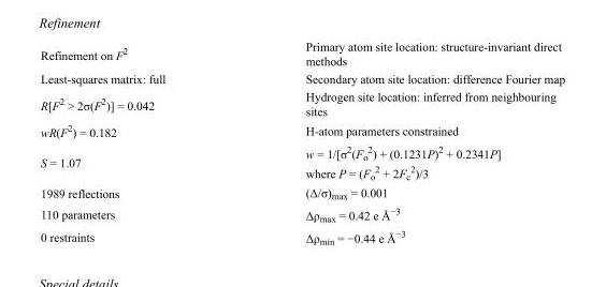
<table><tbody><tr><td>Refinement on F<sup>2</sup></td><td>Primary atom site location: structure-invariant direct methods</td></tr><tr><td>Least-squares matrix: full</td><td>Secondary atom site location: difference Fourier map</td></tr><tr><td>R[F<sup>2</sup> &gt; 2σ(F<sup>2</sup>)] = 0.042</td><td>Hydrogen site location: inferred from neighbouring sites</td></tr><tr><td>wR(F<sup>2</sup>) = 0.182</td><td>H-atom parameters constrained</td></tr><tr><td>S = 1.07</td><td>w = 1/[σ<sup>2</sup>(F<sub>o</sub> <sup>2</sup>) + (0.1231P)<sup>2</sup> + 0.2341P] where P = (F<sub>o</sub> <sup>2</sup> + 2F<sub>c</sub> <sup>2</sup>)/3</td></tr><tr><td>1989 reflections</td><td>(Δ/σ)<sub>max</sub> = 0.001</td></tr><tr><td>110 parameters</td><td>Δρ<sub>max</sub> = 0.42 e Å<sup>−3</sup></td></tr><tr><td>0 restraints</td><td>Δρ<sub>min</sub> = −0.44 e Å<sup>−3</sup></td></tr></tbody></table>